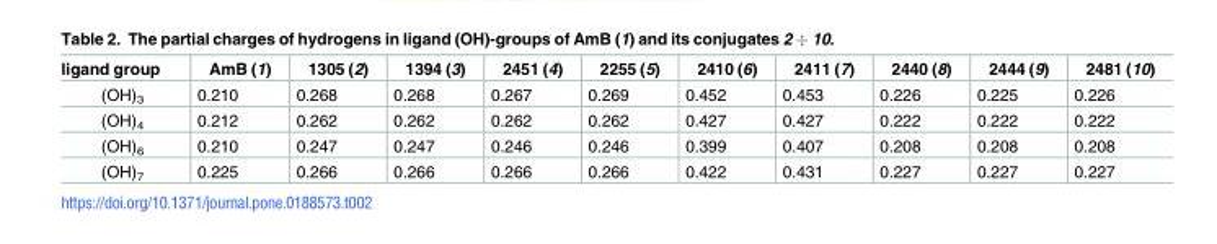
<table><thead><tr><td>ligand group</td><td>AmB (1)</td><td>1305 (2)</td><td>1394 (3)</td><td>2451 (4)</td><td>2255 (5)</td><td>2410 (6)</td><td>2411 (7)</td><td>2440 (8)</td><td>2444 (9)</td><td>2481 (10)</td></tr></thead><tbody><tr><td>(OH)<sub>3</sub></td><td>0.210</td><td>0.268</td><td>0.268</td><td>0.267</td><td>0.269</td><td>0.452</td><td>0.453</td><td>0.226</td><td>0.225</td><td>0.226</td></tr><tr><td>(OH)<sub>4</sub></td><td>0.212</td><td>0.262</td><td>0.262</td><td>0.262</td><td>0.262</td><td>0.427</td><td>0.427</td><td>0.222</td><td>0.222</td><td>0.222</td></tr><tr><td>(OH)<sub>6</sub></td><td>0.210</td><td>0.247</td><td>0.247</td><td>0.246</td><td>0.246</td><td>0.399</td><td>0.407</td><td>0.208</td><td>0.208</td><td>0.208</td></tr><tr><td>(OH)<sub>7</sub></td><td>0.225</td><td>0.266</td><td>0.266</td><td>0.266</td><td>0.266</td><td>0.422</td><td>0.431</td><td>0.227</td><td>0.227</td><td>0.227</td></tr></tbody></table>